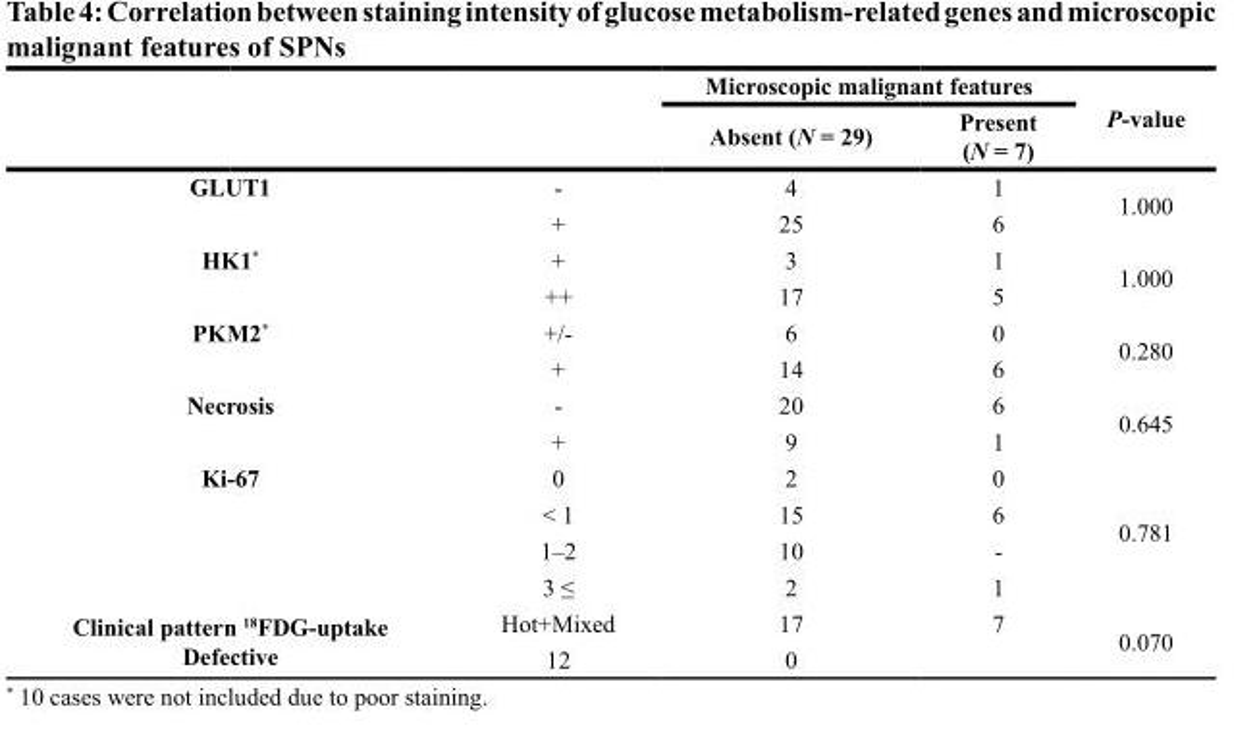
<table><thead><tr><td rowspan="2"></td><td rowspan="2"></td><td colspan="2">Microscopic malignant features</td><td rowspan="2">P-value</td></tr><tr><td>Absent (N = 29)</td><td>Present (N = 7)</td></tr></thead><tbody><tr><td rowspan="2">GLUT1</td><td>-</td><td>4</td><td>1</td><td rowspan="2">1.000</td></tr><tr><td>+</td><td>25</td><td>6</td></tr><tr><td rowspan="2">HK1*</td><td>+</td><td>3</td><td>1</td><td rowspan="2">1.000</td></tr><tr><td>++</td><td>17</td><td>5</td></tr><tr><td rowspan="2">PKM2*</td><td>+/-</td><td>6</td><td>0</td><td rowspan="2">0.280</td></tr><tr><td>+</td><td>14</td><td>6</td></tr><tr><td rowspan="2">Necrosis</td><td>-</td><td>20</td><td>6</td><td rowspan="2">0.645</td></tr><tr><td>+</td><td>9</td><td>1</td></tr><tr><td rowspan="4">Ki-67</td><td>0</td><td>2</td><td>0</td><td rowspan="4">0.781</td></tr><tr><td>&lt; 1</td><td>15</td><td>6</td></tr><tr><td>1–2</td><td>10</td><td>-</td></tr><tr><td>3 ≤</td><td>2</td><td>1</td></tr><tr><td rowspan="2">Clinical pattern <sup>18</sup>FDG-uptake Defective</td><td>Hot+Mixed</td><td>17</td><td>7</td><td rowspan="2">0.070</td></tr><tr><td>12</td><td>0</td><td></td></tr></tbody></table>